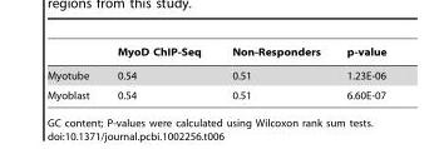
<table><thead><tr><td></td><td>MyoD ChIP-Seq</td><td>Non-Responders</td><td>p-value</td></tr></thead><tbody><tr><td>Myotube</td><td>0.54</td><td>0.51</td><td>1.23E-06</td></tr><tr><td>Myoblast</td><td>0.54</td><td>0.51</td><td>6.60E-07</td></tr></tbody></table>